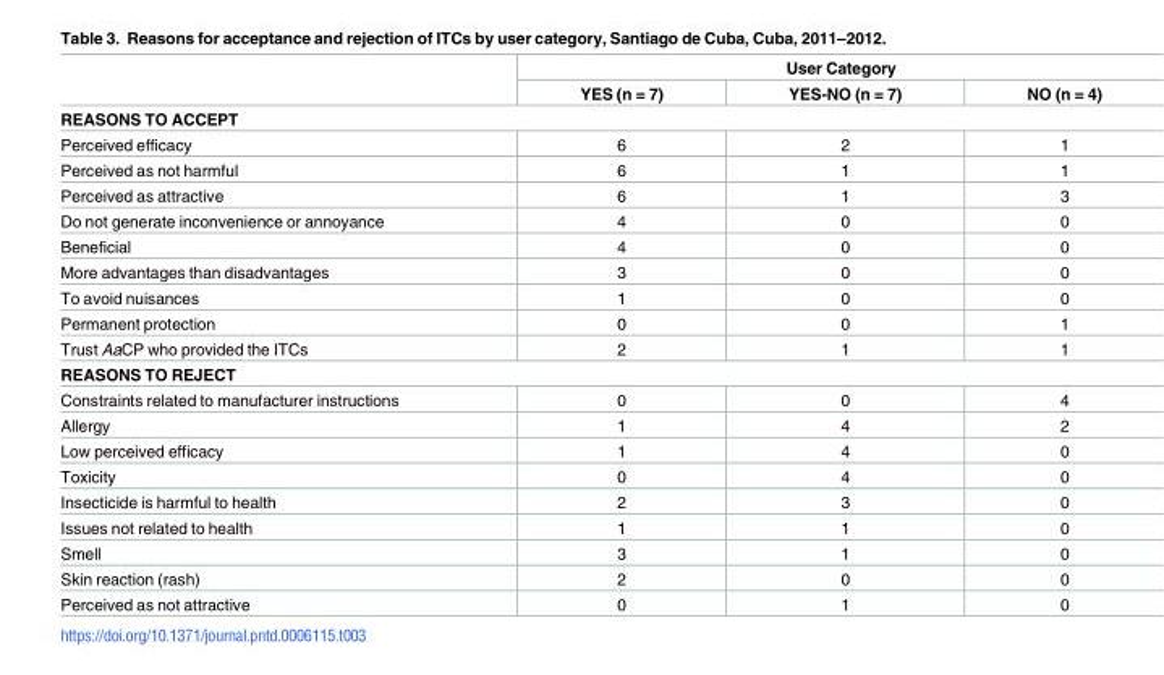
<table><thead><tr><td rowspan="2"></td><td colspan="3">User Category</td></tr><tr><td>YES (n = 7)</td><td>YES-NO (n = 7)</td><td>NO (n = 4)</td></tr></thead><tbody><tr><td colspan="4">REASONS TO ACCEPT</td></tr><tr><td>Perceived efficacy</td><td>6</td><td>2</td><td>1</td></tr><tr><td>Perceived as not harmful</td><td>6</td><td>1</td><td>1</td></tr><tr><td>Perceived as attractive</td><td>6</td><td>1</td><td>3</td></tr><tr><td>Do not generate inconvenience or annoyance</td><td>4</td><td>0</td><td>0</td></tr><tr><td>Beneficial</td><td>4</td><td>0</td><td>0</td></tr><tr><td>More advantages than disadvantages</td><td>3</td><td>0</td><td>0</td></tr><tr><td>To avoid nuisances</td><td>1</td><td>0</td><td>0</td></tr><tr><td>Permanent protection</td><td>0</td><td>0</td><td>1</td></tr><tr><td>Trust AaCP who provided the ITCs</td><td>2</td><td>1</td><td>1</td></tr><tr><td colspan="4">REASONS TO REJECT</td></tr><tr><td>Constraints related to manufacturer instructions</td><td>0</td><td>0</td><td>4</td></tr><tr><td>Allergy</td><td>1</td><td>4</td><td>2</td></tr><tr><td>Low perceived efficacy</td><td>1</td><td>4</td><td>0</td></tr><tr><td>Toxicity</td><td>0</td><td>4</td><td>0</td></tr><tr><td>Insecticide is harmful to health</td><td>2</td><td>3</td><td>0</td></tr><tr><td>Issues not related to health</td><td>1</td><td>1</td><td>0</td></tr><tr><td>Smell</td><td>3</td><td>1</td><td>0</td></tr><tr><td>Skin reaction (rash)</td><td>2</td><td>0</td><td>0</td></tr><tr><td>Perceived as not attractive</td><td>0</td><td>1</td><td>0</td></tr></tbody></table>